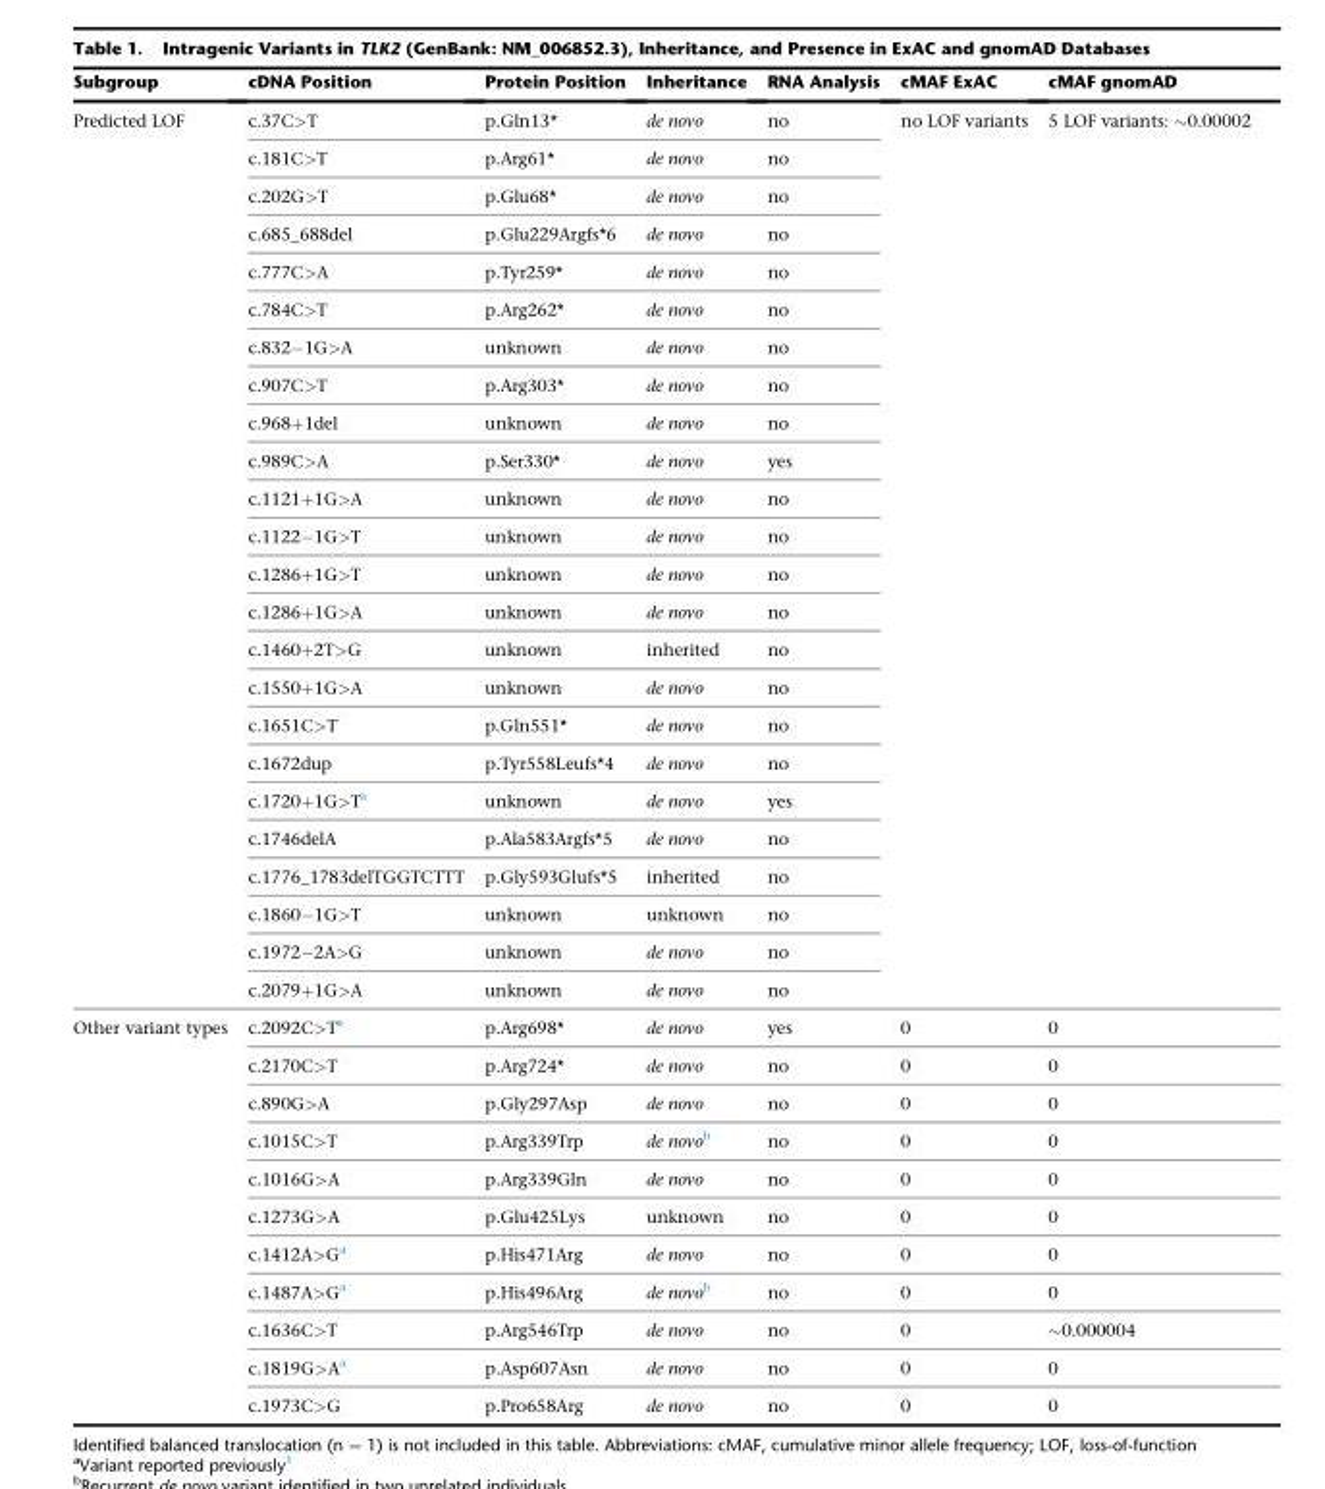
<table><thead><tr><td>Subgroup</td><td>cDNA Position</td><td>Protein Position</td><td>Inheritance</td><td>RNA Analysis</td><td>cMAF ExAC</td><td>cMAF gnomAD</td></tr></thead><tbody><tr><td rowspan="24">Predicted LOF</td><td>c.37C&gt;T</td><td>p.Gln13*</td><td>de novo</td><td>no</td><td rowspan="24">no LOF variants</td><td rowspan="24">5 LOF variants: ∼0.00002</td></tr><tr><td>c.181C&gt;T</td><td>p.Arg61*</td><td>de novo</td><td>no</td></tr><tr><td>c.202G&gt;T</td><td>p.Glu68*</td><td>de novo</td><td>no</td></tr><tr><td>c.685_688del</td><td>p.Glu229Argfs*6</td><td>de novo</td><td>no</td></tr><tr><td>c.777C&gt;A</td><td>p.Tyr259*</td><td>de novo</td><td>no</td></tr><tr><td>c.784C&gt;T</td><td>p.Arg262*</td><td>de novo</td><td>no</td></tr><tr><td>c.832−1G&gt;A</td><td>unknown</td><td>de novo</td><td>no</td></tr><tr><td>c.907C&gt;T</td><td>p.Arg303*</td><td>de novo</td><td>no</td></tr><tr><td>c.968+1del</td><td>unknown</td><td>de novo</td><td>no</td></tr><tr><td>c.989C&gt;A</td><td>p.Ser330*</td><td>de novo</td><td>yes</td></tr><tr><td>c.1121+1G&gt;A</td><td>unknown</td><td>de novo</td><td>no</td></tr><tr><td>c.1122−1G&gt;T</td><td>unknown</td><td>de novo</td><td>no</td></tr><tr><td>c.1286+1G&gt;T</td><td>unknown</td><td>de novo</td><td>no</td></tr><tr><td>c.1286+1G&gt;A</td><td>unknown</td><td>de novo</td><td>no</td></tr><tr><td>c.1460+2T&gt;G</td><td>unknown</td><td>inherited</td><td>no</td></tr><tr><td>c.1550+1G&gt;A</td><td>unknown</td><td>de novo</td><td>no</td></tr><tr><td>c.1651C&gt;T</td><td>p.Gln551*</td><td>de novo</td><td>no</td></tr><tr><td>c.1672dup</td><td>p.Tyr558Leufs*4</td><td>de novo</td><td>no</td></tr><tr><td>c.1720+1G&gt;T<sup>a</sup></td><td>unknown</td><td>de novo</td><td>yes</td></tr><tr><td>c.1746delA</td><td>p.Ala583Argfs*5</td><td>de novo</td><td>no</td></tr><tr><td>c.1776_1783delTGGTCTTT</td><td>p.Gly593Glufs*5</td><td>inherited</td><td>no</td></tr><tr><td>c.1860−1G&gt;T</td><td>unknown</td><td>unknown</td><td>no</td></tr><tr><td>c.1972−2A&gt;G</td><td>unknown</td><td>de novo</td><td>no</td></tr><tr><td>c.2079+1G&gt;A</td><td>unknown</td><td>de novo</td><td>no</td></tr><tr><td rowspan="11">Other variant types</td><td>c.2092C&gt;T<sup>a</sup></td><td>p.Arg698*</td><td>de novo</td><td>yes</td><td>0</td><td>0</td></tr><tr><td>c.2170C&gt;T</td><td>p.Arg724*</td><td>de novo</td><td>no</td><td>0</td><td>0</td></tr><tr><td>c.890G&gt;A</td><td>p.Gly297Asp</td><td>de novo</td><td>no</td><td>0</td><td>0</td></tr><tr><td>c.1015C&gt;T</td><td>p.Arg339Trp</td><td>de novo<sup>b</sup></td><td>no</td><td>0</td><td>0</td></tr><tr><td>c.1016G&gt;A</td><td>p.Arg339Gln</td><td>de novo</td><td>no</td><td>0</td><td>0</td></tr><tr><td>c.1273G&gt;A</td><td>p.Glu425Lys</td><td>unknown</td><td>no</td><td>0</td><td>0</td></tr><tr><td>c.1412A&gt;G<sup>a</sup></td><td>p.His471Arg</td><td>de novo</td><td>no</td><td>0</td><td>0</td></tr><tr><td>c.1487A&gt;G<sup>a</sup></td><td>p.His496Arg</td><td>de novo<sup>b</sup></td><td>no</td><td>0</td><td>0</td></tr><tr><td>c.1636C&gt;T</td><td>p.Arg546Trp</td><td>de novo</td><td>no</td><td>0</td><td>∼0.000004</td></tr><tr><td>c.1819G&gt;A<sup>a</sup></td><td>p.Asp607Asn</td><td>de novo</td><td>no</td><td>0</td><td>0</td></tr><tr><td>c.1973C&gt;G</td><td>p.Pro658Arg</td><td>de novo</td><td>no</td><td>0</td><td>0</td></tr></tbody></table>